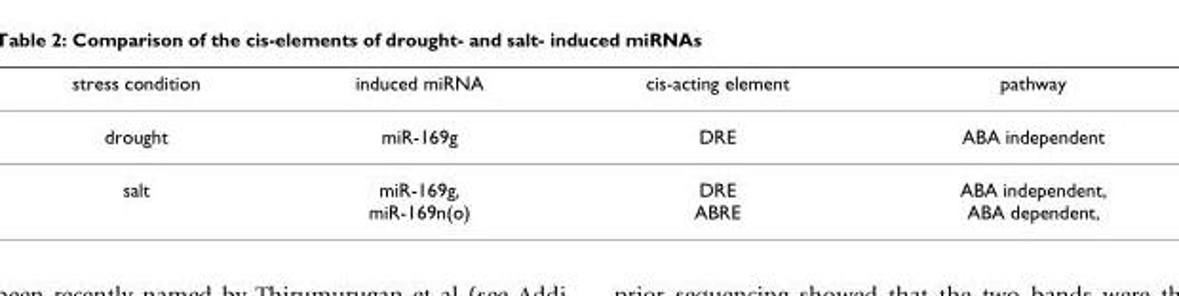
<table><thead><tr><td>stress condition</td><td>induced miRNA</td><td>cis-acting element</td><td>pathway</td></tr></thead><tbody><tr><td>drought</td><td>miR-169g</td><td>DRE</td><td>ABA independent</td></tr><tr><td>salt</td><td>miR-169g, miR-169n(o)</td><td>DRE ABRE</td><td>ABA independent, ABA dependent,</td></tr></tbody></table>